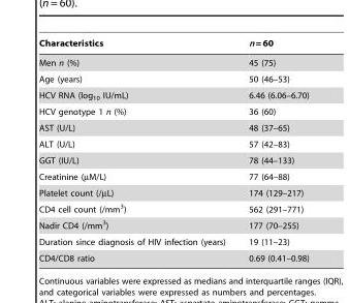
<table><thead><tr><td>Characteristics</td><td>n = 60</td></tr></thead><tbody><tr><td>Men n (%)</td><td>45 (75)</td></tr><tr><td>Age (years)</td><td>50 (46–53)</td></tr><tr><td>HCV RNA (log<sub>10</sub> IU/mL)</td><td>6.46 (6.06–6.70)</td></tr><tr><td>HCV genotype 1 n (%)</td><td>36 (60)</td></tr><tr><td>AST (U/L)</td><td>48 (37–65)</td></tr><tr><td>ALT (U/L)</td><td>57 (42–83)</td></tr><tr><td>GGT (IU/L)</td><td>78 (44–133)</td></tr><tr><td>Creatinine (µM/L)</td><td>77 (64–88)</td></tr><tr><td>Platelet count (/µL)</td><td>174 (129–217)</td></tr><tr><td>CD4 cell count (/mm<sup>3</sup>)</td><td>562 (291–771)</td></tr><tr><td>Nadir CD4 (/mm<sup>3</sup>)</td><td>177 (70–255)</td></tr><tr><td>Duration since diagnosis of HIV infection (years)</td><td>19 (11–23)</td></tr><tr><td>CD4/CD8 ratio</td><td>0.69 (0.41–0.98)</td></tr></tbody></table>